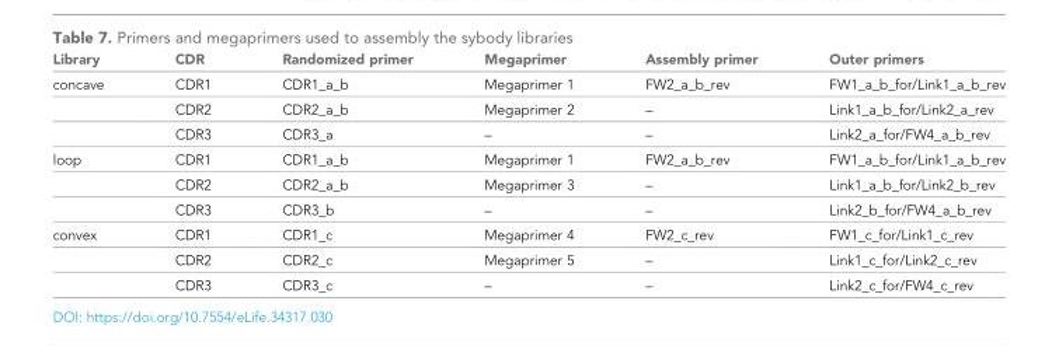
<table><thead><tr><td>Library</td><td>CDR</td><td>Randomized primer</td><td>Megaprimer</td><td>Assembly primer</td><td>Outer primers</td></tr></thead><tbody><tr><td rowspan="3">concave</td><td>CDR1</td><td>CDR1_a_b</td><td>Megaprimer 1</td><td>FW2_a_b_rev</td><td>FW1_a_b_for/Link1_a_b_rev</td></tr><tr><td>CDR2</td><td>CDR2_a_b</td><td>Megaprimer 2</td><td>–</td><td>Link1_a_b_for/Link2_a_rev</td></tr><tr><td>CDR3</td><td>CDR3_a</td><td>–</td><td>–</td><td>Link2_a_for/FW4_a_b_rev</td></tr><tr><td rowspan="3">loop</td><td>CDR1</td><td>CDR1_a_b</td><td>Megaprimer 1</td><td>FW2_a_b_rev</td><td>FW1_a_b_for/Link1_a_b_rev</td></tr><tr><td>CDR2</td><td>CDR2_a_b</td><td>Megaprimer 3</td><td>–</td><td>Link1_a_b_for/Link2_b_rev</td></tr><tr><td>CDR3</td><td>CDR3_b</td><td>–</td><td>–</td><td>Link2_b_for/FW4_a_b_rev</td></tr><tr><td rowspan="3">convex</td><td>CDR1</td><td>CDR1_c</td><td>Megaprimer 4</td><td>FW2_c_rev</td><td>FW1_c_for/Link1_c_rev</td></tr><tr><td>CDR2</td><td>CDR2_c</td><td>Megaprimer 5</td><td>–</td><td>Link1_c_for/Link2_c_rev</td></tr><tr><td>CDR3</td><td>CDR3_c</td><td>–</td><td>–</td><td>Link2_c_for/FW4_c_rev</td></tr></tbody></table>